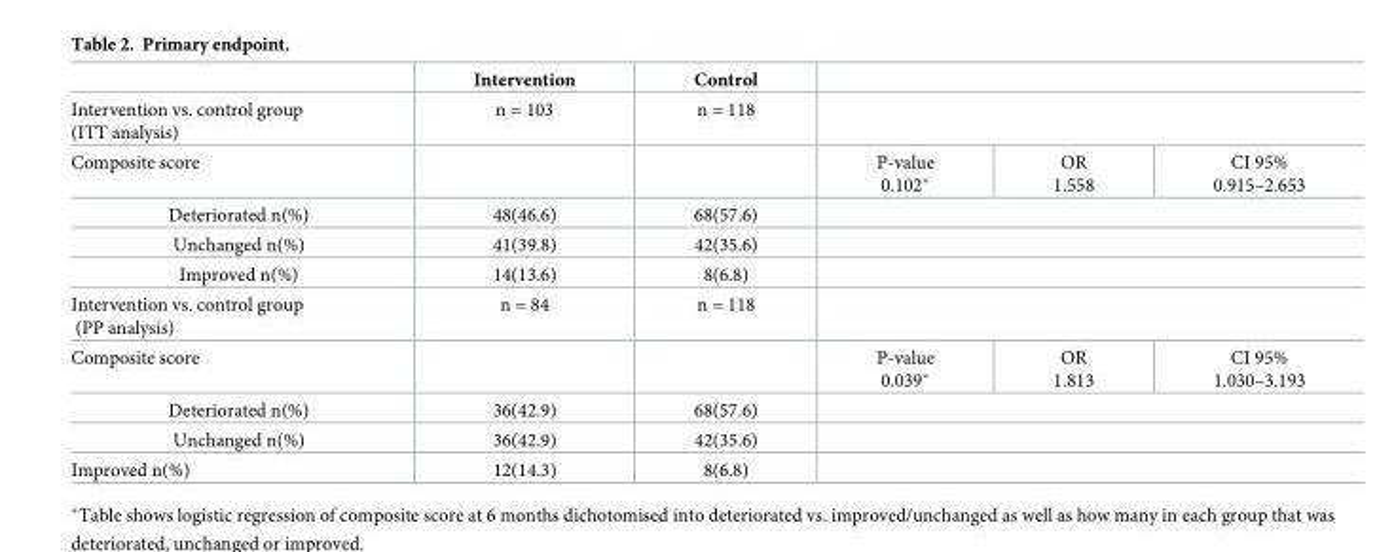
<table><thead><tr><td></td><td>Intervention</td><td>Control</td><td></td><td></td><td></td></tr></thead><tbody><tr><td>Intervention vs. control group (ITT analysis)</td><td>n = 103</td><td>n = 118</td><td colspan="3"></td></tr><tr><td>Composite score</td><td></td><td></td><td>P-value 0.102*</td><td>OR 1.558</td><td>CI 95% 0.915–2.653</td></tr><tr><td>Deteriorated n(%)</td><td>48(46.6)</td><td>68(57.6)</td><td colspan="3"></td></tr><tr><td>Unchanged n(%)</td><td>41(39.8)</td><td>42(35.6)</td><td colspan="3"></td></tr><tr><td>Improved n(%)</td><td>14(13.6)</td><td>8(6.8)</td><td colspan="3"></td></tr><tr><td>Intervention vs. control group (PP analysis)</td><td>n = 84</td><td>n = 118</td><td colspan="3"></td></tr><tr><td>Composite score</td><td></td><td></td><td>P-value 0.039*</td><td>OR 1.813</td><td>CI 95% 1.030–3.193</td></tr><tr><td>Deteriorated n(%)</td><td>36(42.9)</td><td>68(57.6)</td><td colspan="3"></td></tr><tr><td>Unchanged n(%)</td><td>36(42.9)</td><td>42(35.6)</td><td colspan="3"></td></tr><tr><td>Improved n(%)</td><td>12(14.3)</td><td>8(6.8)</td><td colspan="3"></td></tr></tbody></table>